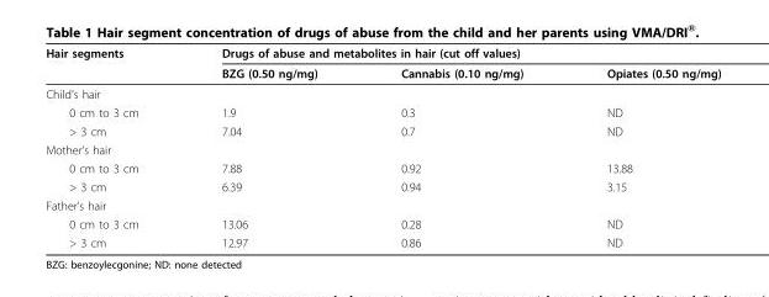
<table><thead><tr><td rowspan="2">Hair segments</td><td colspan="3">Drugs of abuse and metabolites in hair (cut off values)</td></tr><tr><td>BZG (0.50 ng/mg)</td><td>Cannabis (0.10 ng/mg)</td><td>Opiates (0.50 ng/mg)</td></tr></thead><tbody><tr><td colspan="4">Child’s hair</td></tr><tr><td>0 cm to 3 cm</td><td>1.9</td><td>0.3</td><td>ND</td></tr><tr><td>&gt; 3 cm</td><td>7.04</td><td>0.7</td><td>ND</td></tr><tr><td colspan="4">Mother’s hair</td></tr><tr><td>0 cm to 3 cm</td><td>7.88</td><td>0.92</td><td>13.88</td></tr><tr><td>&gt; 3 cm</td><td>6.39</td><td>0.94</td><td>3.15</td></tr><tr><td colspan="4">Father’s hair</td></tr><tr><td>0 cm to 3 cm</td><td>13.06</td><td>0.28</td><td>ND</td></tr><tr><td>&gt; 3 cm</td><td>12.97</td><td>0.86</td><td>ND</td></tr></tbody></table>